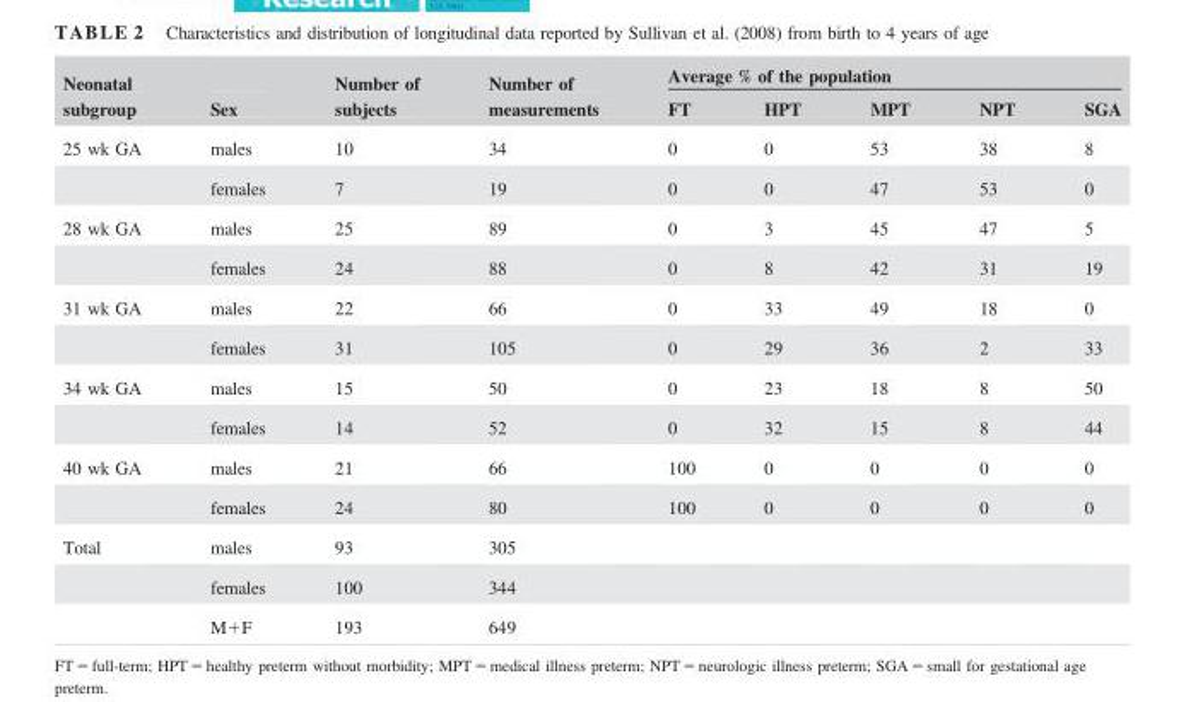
<table><thead><tr><td rowspan="2">Neonatal subgroup</td><td rowspan="2">Sex</td><td rowspan="2">Number of subjects</td><td rowspan="2">Number of measurements</td><td colspan="5">Average % of the population</td></tr><tr><td>FT</td><td>HPT</td><td>MPT</td><td>NPT</td><td>SGA</td></tr></thead><tbody><tr><td rowspan="2">25 wk GA</td><td>males</td><td>10</td><td>34</td><td>0</td><td>0</td><td>53</td><td>38</td><td>8</td></tr><tr><td>females</td><td>7</td><td>19</td><td>0</td><td>0</td><td>47</td><td>53</td><td>0</td></tr><tr><td rowspan="2">28 wk GA</td><td>males</td><td>25</td><td>89</td><td>0</td><td>3</td><td>45</td><td>47</td><td>5</td></tr><tr><td>females</td><td>24</td><td>88</td><td>0</td><td>8</td><td>42</td><td>31</td><td>19</td></tr><tr><td rowspan="2">31 wk GA</td><td>males</td><td>22</td><td>66</td><td>0</td><td>33</td><td>49</td><td>18</td><td>0</td></tr><tr><td>females</td><td>31</td><td>105</td><td>0</td><td>29</td><td>36</td><td>2</td><td>33</td></tr><tr><td rowspan="2">34 wk GA</td><td>males</td><td>15</td><td>50</td><td>0</td><td>23</td><td>18</td><td>8</td><td>50</td></tr><tr><td>females</td><td>14</td><td>52</td><td>0</td><td>32</td><td>15</td><td>8</td><td>44</td></tr><tr><td rowspan="2">40 wk GA</td><td>males</td><td>21</td><td>66</td><td>100</td><td>0</td><td>0</td><td>0</td><td>0</td></tr><tr><td>females</td><td>24</td><td>80</td><td>100</td><td>0</td><td>0</td><td>0</td><td>0</td></tr><tr><td rowspan="3">Total</td><td>males</td><td>93</td><td>305</td><td></td><td></td><td></td><td></td><td></td></tr><tr><td>females</td><td>100</td><td>344</td><td></td><td></td><td></td><td></td><td></td></tr><tr><td>M+F</td><td>193</td><td>649</td><td></td><td></td><td></td><td></td><td></td></tr></tbody></table>